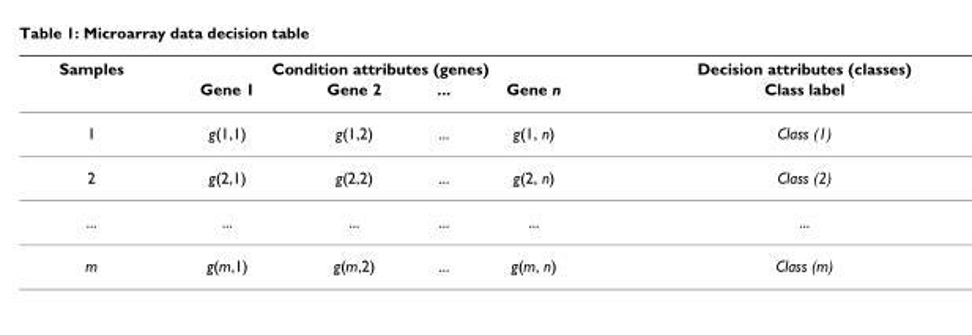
<table><thead><tr><td rowspan="2">Samples</td><td colspan="4">Condition attributes (genes)</td><td rowspan="2">Decision attributes (classes) Class label</td></tr><tr><td>Gene 1</td><td>Gene 2</td><td>...</td><td>Gene n</td></tr></thead><tbody><tr><td>1</td><td>g(1,1)</td><td>g(1,2)</td><td>...</td><td>g(1, n)</td><td>Class (1)</td></tr><tr><td>2</td><td>g(2,1)</td><td>g(2,2)</td><td>...</td><td>g(2, n)</td><td>Class (2)</td></tr><tr><td>...</td><td>...</td><td>...</td><td>...</td><td>...</td><td>...</td></tr><tr><td>m</td><td>g(m,1)</td><td>g(m,2)</td><td>...</td><td>g(m, n)</td><td>Class (m)</td></tr></tbody></table>